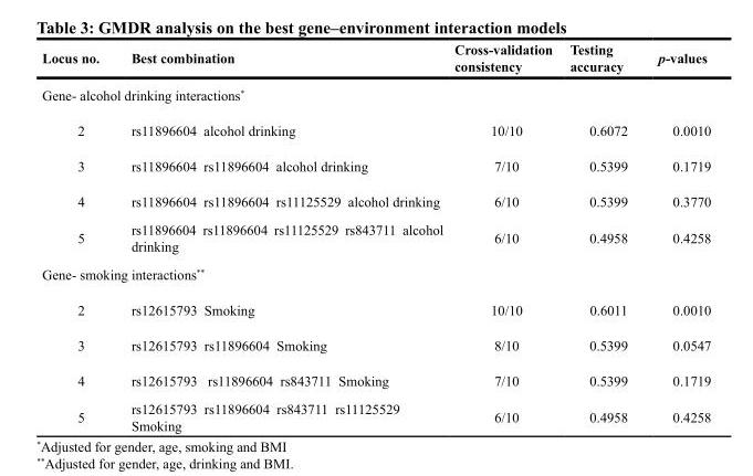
<table><thead><tr><td>Locus no.</td><td>Best combination</td><td>Cross-validation consistency</td><td>Testing accuracy</td><td>p-values</td></tr></thead><tbody><tr><td colspan="5">Gene- alcohol drinking interactions*</td></tr><tr><td>2</td><td>rs11896604 alcohol drinking</td><td>10/10</td><td>0.6072</td><td>0.0010</td></tr><tr><td>3</td><td>rs11896604 rs11896604 alcohol drinking</td><td>7/10</td><td>0.5399</td><td>0.1719</td></tr><tr><td>4</td><td>rs11896604 rs11896604 rs11125529 alcohol drinking</td><td>6/10</td><td>0.5399</td><td>0.3770</td></tr><tr><td>5</td><td>rs11896604 rs11896604 rs11125529 rs843711 alcohol drinking</td><td>6/10</td><td>0.4958</td><td>0.4258</td></tr><tr><td colspan="5">Gene- smoking interactions**</td></tr><tr><td>2</td><td>rs12615793 Smoking</td><td>10/10</td><td>0.6011</td><td>0.0010</td></tr><tr><td>3</td><td>rs12615793 rs11896604 Smoking</td><td>8/10</td><td>0.5399</td><td>0.0547</td></tr><tr><td>4</td><td>rs12615793 rs11896604 rs843711 Smoking</td><td>7/10</td><td>0.5399</td><td>0.1719</td></tr><tr><td>5</td><td>rs12615793 rs11896604 rs843711 rs11125529 Smoking</td><td>6/10</td><td>0.4958</td><td>0.4258</td></tr></tbody></table>